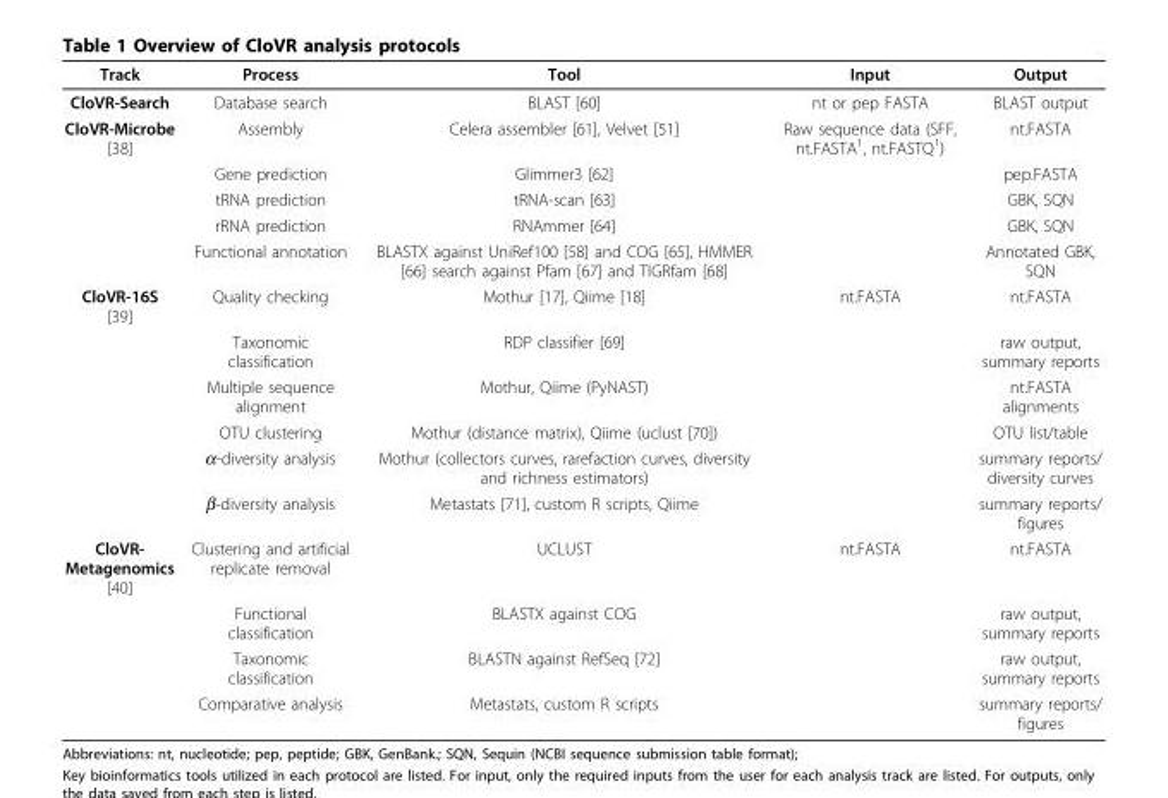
<table><thead><tr><td>Track</td><td>Process</td><td>Tool</td><td>Input</td><td>Output</td></tr></thead><tbody><tr><td>CloVR-Search</td><td>Database search</td><td>BLAST [60]</td><td>nt or pep FASTA</td><td>BLAST output</td></tr><tr><td rowspan="5">CloVR-Microbe [38]</td><td>Assembly</td><td>Celera assembler [61], Velvet [51]</td><td>Raw sequence data (SFF, nt.FASTA<sup>1</sup>, nt.FASTQ<sup>1</sup>)</td><td>nt.FASTA</td></tr><tr><td>Gene prediction</td><td>Glimmer3 [62]</td><td></td><td>pep.FASTA</td></tr><tr><td>tRNA prediction</td><td>tRNA-scan [63]</td><td></td><td>GBK, SQN</td></tr><tr><td>rRNA prediction</td><td>RNAmmer [64]</td><td></td><td>GBK, SQN</td></tr><tr><td>Functional annotation</td><td>BLASTX against UniRef100 [58] and COG [65], HMMER [66] search against Pfam [67] and TIGRfam [68]</td><td></td><td>Annotated GBK, SQN</td></tr><tr><td rowspan="6">CloVR-16S [39]</td><td>Quality checking</td><td>Mothur [17], Qiime [18]</td><td>nt.FASTA</td><td>nt.FASTA</td></tr><tr><td>Taxonomic classification</td><td>RDP classifier [69]</td><td></td><td>raw output, summary reports</td></tr><tr><td>Multiple sequence alignment</td><td>Mothur, Qiime (PyNAST)</td><td></td><td>nt.FASTA alignments</td></tr><tr><td>OTU clustering</td><td>Mothur (distance matrix), Qiime (uclust [70])</td><td></td><td>OTU list/table</td></tr><tr><td>α-diversity analysis</td><td>Mothur (collectors curves, rarefaction curves, diversity and richness estimators)</td><td></td><td>summary reports/ diversity curves</td></tr><tr><td>β-diversity analysis</td><td>Metastats [71], custom R scripts, Qiime</td><td></td><td>summary reports/ figures</td></tr><tr><td rowspan="4">CloVR- Metagenomics [40]</td><td>Clustering and artificial replicate removal</td><td>UCLUST</td><td>nt.FASTA</td><td>nt.FASTA</td></tr><tr><td>Functional classification</td><td>BLASTX against COG</td><td></td><td>raw output, summary reports</td></tr><tr><td>Taxonomic classification</td><td>BLASTN against RefSeq [72]</td><td></td><td>raw output, summary reports</td></tr><tr><td>Comparative analysis</td><td>Metastats, custom R scripts</td><td></td><td>summary reports/ figures</td></tr></tbody></table>